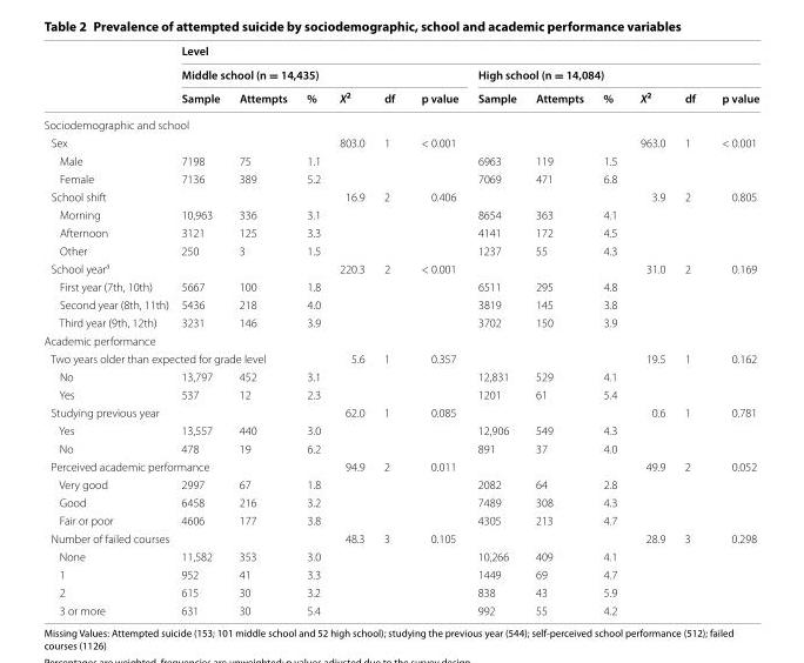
<table><thead><tr><td rowspan="3"></td><td colspan="12">Level</td></tr><tr><td colspan="6">Middle school (n = 14,435)</td><td colspan="6">High school (n = 14,084)</td></tr><tr><td>Sample</td><td>Attempts</td><td>%</td><td>X<sup>2</sup></td><td>df</td><td>p value</td><td>Sample</td><td>Attempts</td><td>%</td><td>X<sup>2</sup></td><td>df</td><td>p value</td></tr></thead><tbody><tr><td colspan="13">Sociodemographic and school</td></tr><tr><td colspan="4">Sex</td><td>803.0</td><td>1</td><td>&lt; 0.001</td><td></td><td></td><td></td><td>963.0</td><td>1</td><td>&lt; 0.001</td></tr><tr><td>Male</td><td>7198</td><td>75</td><td>1.1</td><td></td><td></td><td></td><td>6963</td><td>119</td><td>1.5</td><td></td><td></td><td></td></tr><tr><td>Female</td><td>7136</td><td>389</td><td>5.2</td><td></td><td></td><td></td><td>7069</td><td>471</td><td>6.8</td><td></td><td></td><td></td></tr><tr><td colspan="4">School shift</td><td>16.9</td><td>2</td><td>0.406</td><td></td><td></td><td></td><td>3.9</td><td>2</td><td>0.805</td></tr><tr><td>Morning</td><td>10,963</td><td>336</td><td>3.1</td><td></td><td></td><td></td><td>8654</td><td>363</td><td>4.1</td><td></td><td></td><td></td></tr><tr><td>Afternoon</td><td>3121</td><td>125</td><td>3.3</td><td></td><td></td><td></td><td>4141</td><td>172</td><td>4.5</td><td></td><td></td><td></td></tr><tr><td>Other</td><td>250</td><td>3</td><td>1.5</td><td></td><td></td><td></td><td>1237</td><td>55</td><td>4.3</td><td></td><td></td><td></td></tr><tr><td colspan="4">School year<sup>a</sup></td><td>220.3</td><td>2</td><td>&lt; 0.001</td><td></td><td></td><td></td><td>31.0</td><td>2</td><td>0.169</td></tr><tr><td>First year (7th, 10th)</td><td>5667</td><td>100</td><td>1.8</td><td></td><td></td><td></td><td>6511</td><td>295</td><td>4.8</td><td></td><td></td><td></td></tr><tr><td>Second year (8th, 11th)</td><td>5436</td><td>218</td><td>4.0</td><td></td><td></td><td></td><td>3819</td><td>145</td><td>3.8</td><td></td><td></td><td></td></tr><tr><td>Third year (9th, 12th)</td><td>3231</td><td>146</td><td>3.9</td><td></td><td></td><td></td><td>3702</td><td>150</td><td>3.9</td><td></td><td></td><td></td></tr><tr><td colspan="13">Academic performance</td></tr><tr><td colspan="4">Two years older than expected for grade level</td><td>5.6</td><td>1</td><td>0.357</td><td></td><td></td><td></td><td>19.5</td><td>1</td><td>0.162</td></tr><tr><td>No</td><td>13,797</td><td>452</td><td>3.1</td><td></td><td></td><td></td><td>12,831</td><td>529</td><td>4.1</td><td></td><td></td><td></td></tr><tr><td>Yes</td><td>537</td><td>12</td><td>2.3</td><td></td><td></td><td></td><td>1201</td><td>61</td><td>5.4</td><td></td><td></td><td></td></tr><tr><td colspan="4">Studying previous year</td><td>62.0</td><td>1</td><td>0.085</td><td></td><td></td><td></td><td>0.6</td><td>1</td><td>0.781</td></tr><tr><td>Yes</td><td>13,557</td><td>440</td><td>3.0</td><td></td><td></td><td></td><td>12,906</td><td>549</td><td>4.3</td><td></td><td></td><td></td></tr><tr><td>No</td><td>478</td><td>19</td><td>6.2</td><td></td><td></td><td></td><td>891</td><td>37</td><td>4.0</td><td></td><td></td><td></td></tr><tr><td colspan="4">Perceived academic performance</td><td>94.9</td><td>2</td><td>0.011</td><td></td><td></td><td></td><td>49.9</td><td>2</td><td>0.052</td></tr><tr><td>Very good</td><td>2997</td><td>67</td><td>1.8</td><td></td><td></td><td></td><td>2082</td><td>64</td><td>2.8</td><td></td><td></td><td></td></tr><tr><td>Good</td><td>6458</td><td>216</td><td>3.2</td><td></td><td></td><td></td><td>7489</td><td>308</td><td>4.3</td><td></td><td></td><td></td></tr><tr><td>Fair or poor</td><td>4606</td><td>177</td><td>3.8</td><td></td><td></td><td></td><td>4305</td><td>213</td><td>4.7</td><td></td><td></td><td></td></tr><tr><td colspan="4">Number of failed courses</td><td>48.3</td><td>3</td><td>0.105</td><td></td><td></td><td></td><td>28.9</td><td>3</td><td>0.298</td></tr><tr><td>None</td><td>11,582</td><td>353</td><td>3.0</td><td></td><td></td><td></td><td>10,266</td><td>409</td><td>4.1</td><td></td><td></td><td></td></tr><tr><td>1</td><td>952</td><td>41</td><td>3.3</td><td></td><td></td><td></td><td>1449</td><td>69</td><td>4.7</td><td></td><td></td><td></td></tr><tr><td>2</td><td>615</td><td>30</td><td>3.2</td><td></td><td></td><td></td><td>838</td><td>43</td><td>5.9</td><td></td><td></td><td></td></tr><tr><td>3 or more</td><td>631</td><td>30</td><td>5.4</td><td></td><td></td><td></td><td>992</td><td>55</td><td>4.2</td><td></td><td></td><td></td></tr></tbody></table>